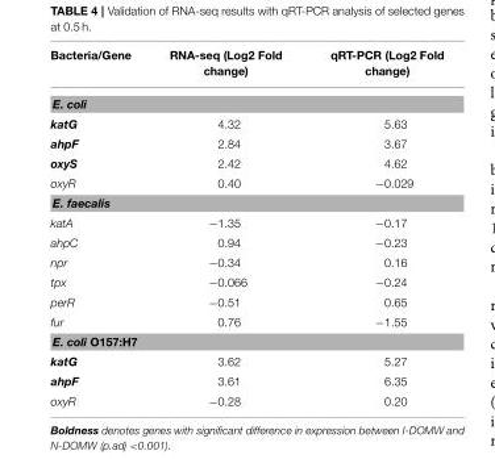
<table><thead><tr><td>Bacteria/Gene</td><td>RNA-seq (Log2 Fold change)</td><td>qRT-PCR (Log2 Fold change)</td></tr></thead><tbody><tr><td colspan="3">E. coli</td></tr><tr><td>katG</td><td>4.32</td><td>5.63</td></tr><tr><td>ahpF</td><td>2.84</td><td>3.67</td></tr><tr><td>oxyS</td><td>2.42</td><td>4.62</td></tr><tr><td>oxyR</td><td>0.40</td><td>−0.029</td></tr><tr><td colspan="3">E. faecalis</td></tr><tr><td>katA</td><td>−1.35</td><td>−0.17</td></tr><tr><td>ahpC</td><td>0.94</td><td>−0.23</td></tr><tr><td>npr</td><td>−0.34</td><td>0.16</td></tr><tr><td>tpx</td><td>−0.066</td><td>−0.24</td></tr><tr><td>perR</td><td>−0.51</td><td>0.65</td></tr><tr><td>fur</td><td>0.76</td><td>−1.55</td></tr><tr><td colspan="3">E. coli O157:H7</td></tr><tr><td>katG</td><td>3.62</td><td>5.27</td></tr><tr><td>ahpF</td><td>3.61</td><td>6.35</td></tr><tr><td>oxyR</td><td>−0.28</td><td>0.20</td></tr></tbody></table>